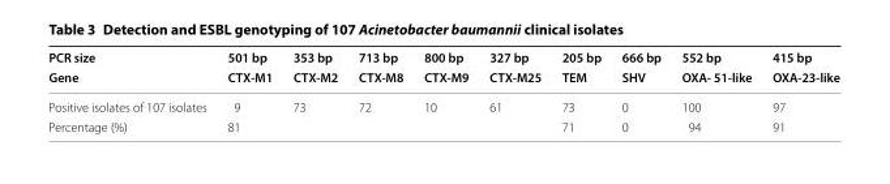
<table><thead><tr><td rowspan="2">PCR size Gene</td><td rowspan="2">501 bp CTX-M1</td><td rowspan="2">353 bp CTX-M2</td><td rowspan="2">713 bp CTX-M8</td><td rowspan="2">800 bp CTX-M9</td><td rowspan="2">327 bp CTX-M25</td><td rowspan="2">205 bp TEM</td><td rowspan="2">666 bp SHV</td><td rowspan="2">552 bp OXA- 51-like</td><td rowspan="2">415 bp OXA-23-like</td></tr><tr></tr></thead><tbody><tr><td>Positive isolates of 107 isolates</td><td>9</td><td>73</td><td>72</td><td>10</td><td>61</td><td>73</td><td>0</td><td>100</td><td>97</td></tr><tr><td>Percentage (%)</td><td colspan="5">81</td><td>71</td><td>0</td><td>94</td><td>91</td></tr></tbody></table>